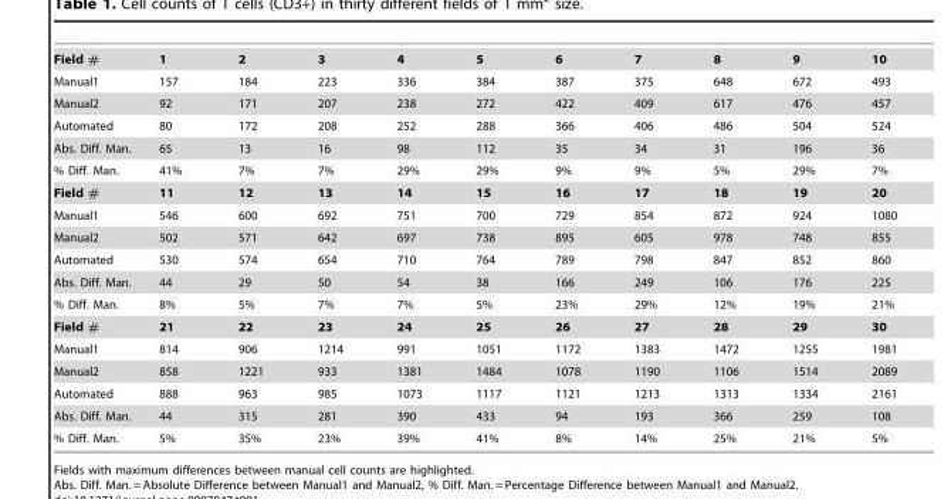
<table><tbody><tr><td>Field #</td><td>1</td><td>2</td><td>3</td><td>4</td><td>5</td><td>6</td><td>7</td><td>8</td><td>9</td><td>10</td></tr><tr><td>Manual1</td><td>157</td><td>184</td><td>223</td><td>336</td><td>384</td><td>387</td><td>375</td><td>648</td><td>672</td><td>493</td></tr><tr><td>Manual2</td><td>92</td><td>171</td><td>207</td><td>238</td><td>272</td><td>422</td><td>409</td><td>617</td><td>476</td><td>457</td></tr><tr><td>Automated</td><td>80</td><td>172</td><td>208</td><td>252</td><td>288</td><td>366</td><td>406</td><td>486</td><td>504</td><td>524</td></tr><tr><td>Abs. Diff. Man.</td><td>65</td><td>13</td><td>16</td><td>98</td><td>112</td><td>35</td><td>34</td><td>31</td><td>196</td><td>36</td></tr><tr><td>% Diff. Man.</td><td>41%</td><td>7%</td><td>7%</td><td>29%</td><td>29%</td><td>9%</td><td>9%</td><td>5%</td><td>29%</td><td>7%</td></tr><tr><td>Field #</td><td>11</td><td>12</td><td>13</td><td>14</td><td>15</td><td>16</td><td>17</td><td>18</td><td>19</td><td>20</td></tr><tr><td>Manual1</td><td>546</td><td>600</td><td>692</td><td>751</td><td>700</td><td>729</td><td>854</td><td>872</td><td>924</td><td>1080</td></tr><tr><td>Manual2</td><td>502</td><td>571</td><td>642</td><td>697</td><td>738</td><td>895</td><td>605</td><td>978</td><td>748</td><td>855</td></tr><tr><td>Automated</td><td>530</td><td>574</td><td>654</td><td>710</td><td>764</td><td>789</td><td>798</td><td>847</td><td>852</td><td>860</td></tr><tr><td>Abs. Diff. Man.</td><td>44</td><td>29</td><td>50</td><td>54</td><td>38</td><td>166</td><td>249</td><td>106</td><td>176</td><td>225</td></tr><tr><td>% Diff. Man.</td><td>8%</td><td>5%</td><td>7%</td><td>7%</td><td>5%</td><td>23%</td><td>29%</td><td>12%</td><td>19%</td><td>21%</td></tr><tr><td>Field #</td><td>21</td><td>22</td><td>23</td><td>24</td><td>25</td><td>26</td><td>27</td><td>28</td><td>29</td><td>30</td></tr><tr><td>Manual1</td><td>814</td><td>906</td><td>1214</td><td>991</td><td>1051</td><td>1172</td><td>1383</td><td>1472</td><td>1255</td><td>1981</td></tr><tr><td>Manual2</td><td>858</td><td>1221</td><td>933</td><td>1381</td><td>1484</td><td>1078</td><td>1190</td><td>1106</td><td>1514</td><td>2089</td></tr><tr><td>Automated</td><td>888</td><td>963</td><td>985</td><td>1073</td><td>1117</td><td>1121</td><td>1213</td><td>1313</td><td>1334</td><td>2161</td></tr><tr><td>Abs. Diff. Man.</td><td>44</td><td>315</td><td>281</td><td>390</td><td>433</td><td>94</td><td>193</td><td>366</td><td>259</td><td>108</td></tr><tr><td>% Diff. Man.</td><td>5%</td><td>35%</td><td>23%</td><td>39%</td><td>41%</td><td>8%</td><td>14%</td><td>25%</td><td>21%</td><td>5%</td></tr></tbody></table>